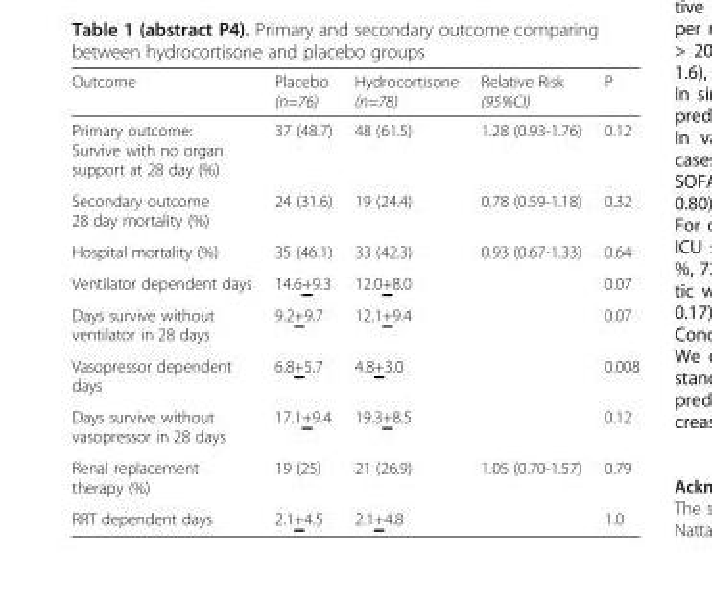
<table><thead><tr><td>Outcome</td><td>Placebo (n=76)</td><td>Hydrocortisone (n=78)</td><td>Relative Risk (95%CI)</td><td>P</td></tr></thead><tbody><tr><td>Primary outcome: Survive with no organ support at 28 day (%)</td><td>37 (48.7)</td><td>48 (61.5)</td><td>1.28 (0.93-1.76)</td><td>0.12</td></tr><tr><td>Secondary outcome 28 day mortality (%)</td><td>24 (31.6)</td><td>19 (24.4)</td><td>0.78 (0.59-1.18)</td><td>0.32</td></tr><tr><td>Hospital mortality (%)</td><td>35 (46.1)</td><td>33 (42.3)</td><td>0.93 (0.67-1.33)</td><td>0.64</td></tr><tr><td>Ventilator dependent days</td><td>14.6+9.3</td><td>12.0+8.0</td><td></td><td>0.07</td></tr><tr><td>Days survive without ventilator in 28 days</td><td>9.2+9.7</td><td>12.1+9.4</td><td></td><td>0.07</td></tr><tr><td>Vasopressor dependent days</td><td>6.8+5.7</td><td>4.8+3.0</td><td></td><td>0.008</td></tr><tr><td>Days survive without vasopressor in 28 days</td><td>17.1+9.4</td><td>19.3+8.5</td><td></td><td>0.12</td></tr><tr><td>Renal replacement therapy (%)</td><td>19 (25)</td><td>21 (26.9)</td><td>1.05 (0.70-1.57)</td><td>0.79</td></tr><tr><td>RRT dependent days</td><td>2.1+4.5</td><td>2.1+4.8</td><td></td><td>1.0</td></tr></tbody></table>